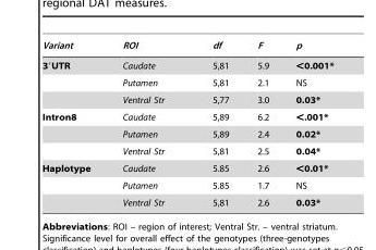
<table><thead><tr><td>Variant</td><td>ROI</td><td>df</td><td>F</td><td>p</td></tr></thead><tbody><tr><td rowspan="3">3′UTR</td><td>Caudate</td><td>5,81</td><td>5.9</td><td>&lt;0.001*</td></tr><tr><td>Putamen</td><td>5,81</td><td>2.1</td><td>NS</td></tr><tr><td>Ventral Str</td><td>5,77</td><td>3.0</td><td>0.03*</td></tr><tr><td rowspan="3">Intron8</td><td>Caudate</td><td>5,89</td><td>6.2</td><td>&lt;.001*</td></tr><tr><td>Putamen</td><td>5,89</td><td>2.4</td><td>0.02*</td></tr><tr><td>Ventral Str</td><td>5,81</td><td>2.5</td><td>0.04*</td></tr><tr><td rowspan="3">Haplotype</td><td>Caudate</td><td>5.85</td><td>2.6</td><td>&lt;0.01*</td></tr><tr><td>Putamen</td><td>5.85</td><td>1.7</td><td>NS</td></tr><tr><td>Ventral Str</td><td>5,81</td><td>2.6</td><td>0.03*</td></tr></tbody></table>